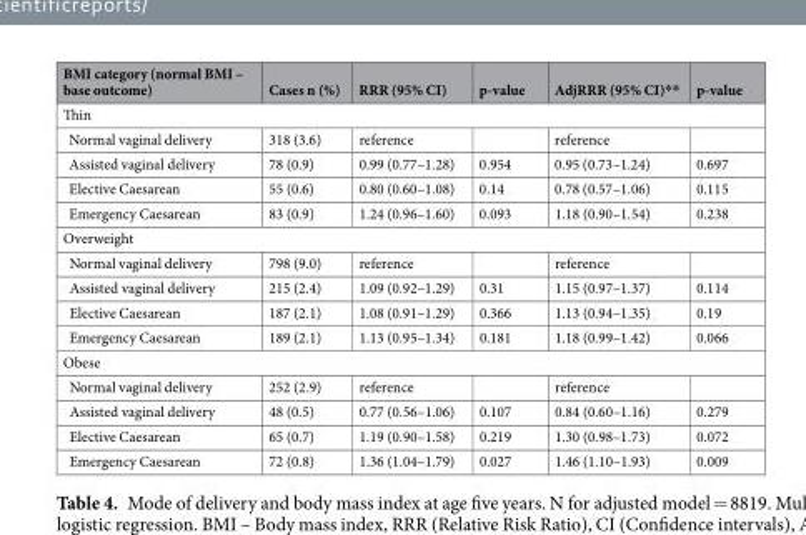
<table><thead><tr><td>BMI category (normal BMI – base outcome)</td><td>Cases n (%)</td><td>RRR (95% CI)</td><td>p-value</td><td>AdjRRR (95% CI)**</td><td>p-value</td></tr></thead><tbody><tr><td colspan="6">Thin</td></tr><tr><td>Normal vaginal delivery</td><td>318 (3.6)</td><td>reference</td><td></td><td>reference</td><td></td></tr><tr><td>Assisted vaginal delivery</td><td>78 (0.9)</td><td>0.99 (0.77–1.28)</td><td>0.954</td><td>0.95 (0.73–1.24)</td><td>0.697</td></tr><tr><td>Elective Caesarean</td><td>55 (0.6)</td><td>0.80 (0.60–1.08)</td><td>0.14</td><td>0.78 (0.57–1.06)</td><td>0.115</td></tr><tr><td>Emergency Caesarean</td><td>83 (0.9)</td><td>1.24 (0.96–1.60)</td><td>0.093</td><td>1.18 (0.90–1.54)</td><td>0.238</td></tr><tr><td colspan="6">Overweight</td></tr><tr><td>Normal vaginal delivery</td><td>798 (9.0)</td><td>reference</td><td></td><td>reference</td><td></td></tr><tr><td>Assisted vaginal delivery</td><td>215 (2.4)</td><td>1.09 (0.92–1.29)</td><td>0.31</td><td>1.15 (0.97–1.37)</td><td>0.114</td></tr><tr><td>Elective Caesarean</td><td>187 (2.1)</td><td>1.08 (0.91–1.29)</td><td>0.366</td><td>1.13 (0.94–1.35)</td><td>0.19</td></tr><tr><td>Emergency Caesarean</td><td>189 (2.1)</td><td>1.13 (0.95–1.34)</td><td>0.181</td><td>1.18 (0.99–1.42)</td><td>0.066</td></tr><tr><td colspan="6">Obese</td></tr><tr><td>Normal vaginal delivery</td><td>252 (2.9)</td><td>reference</td><td></td><td>reference</td><td></td></tr><tr><td>Assisted vaginal delivery</td><td>48 (0.5)</td><td>0.77 (0.56–1.06)</td><td>0.107</td><td>0.84 (0.60–1.16)</td><td>0.279</td></tr><tr><td>Elective Caesarean</td><td>65 (0.7)</td><td>1.19 (0.90–1.58)</td><td>0.219</td><td>1.30 (0.98–1.73)</td><td>0.072</td></tr><tr><td>Emergency Caesarean</td><td>72 (0.8)</td><td>1.36 (1.04–1.79)</td><td>0.027</td><td>1.46 (1.10–1.93)</td><td>0.009</td></tr></tbody></table>